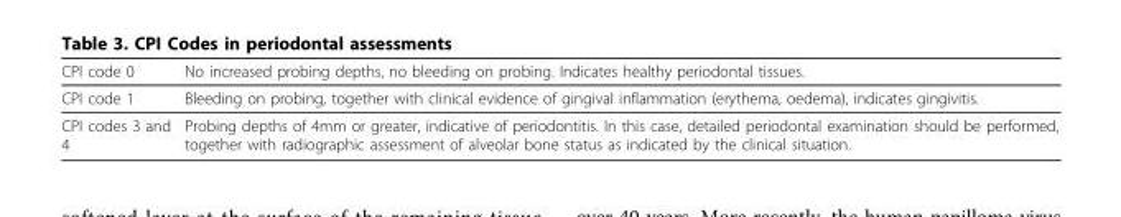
<table><thead><tr><td>CPI code 0</td><td>No increased probing depths, no bleeding on probing. Indicates healthy periodontal tissues.</td></tr></thead><tbody><tr><td>CPI code 1</td><td>Bleeding on probing, together with clinical evidence of gingival inflammation (erythema, oedema), indicates gingivitis.</td></tr><tr><td>CPI codes 3 and 4</td><td>Probing depths of 4mm or greater, indicative of periodontitis. In this case, detailed periodontal examination should be performed, together with radiographic assessment of alveolar bone status as indicated by the clinical situation.</td></tr></tbody></table>